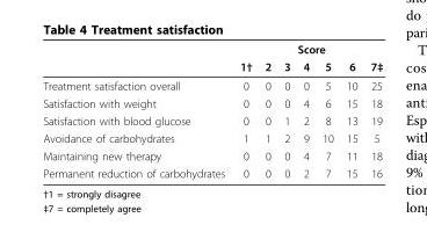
<table><thead><tr><td rowspan="2"></td><td colspan="7">Score</td></tr><tr><td>1†</td><td>2</td><td>3</td><td>4</td><td>5</td><td>6</td><td>7‡</td></tr></thead><tbody><tr><td>Treatment satisfaction overall</td><td>0</td><td>0</td><td>0</td><td>0</td><td>5</td><td>10</td><td>25</td></tr><tr><td>Satisfaction with weight</td><td>0</td><td>0</td><td>0</td><td>4</td><td>6</td><td>15</td><td>18</td></tr><tr><td>Satisfaction with blood glucose</td><td>0</td><td>0</td><td>1</td><td>2</td><td>8</td><td>13</td><td>19</td></tr><tr><td>Avoidance of carbohydrates</td><td>1</td><td>1</td><td>2</td><td>9</td><td>10</td><td>15</td><td>5</td></tr><tr><td>Maintaining new therapy</td><td>0</td><td>0</td><td>0</td><td>4</td><td>7</td><td>11</td><td>18</td></tr><tr><td>Permanent reduction of carbohydrates</td><td>0</td><td>0</td><td>0</td><td>2</td><td>7</td><td>15</td><td>16</td></tr></tbody></table>